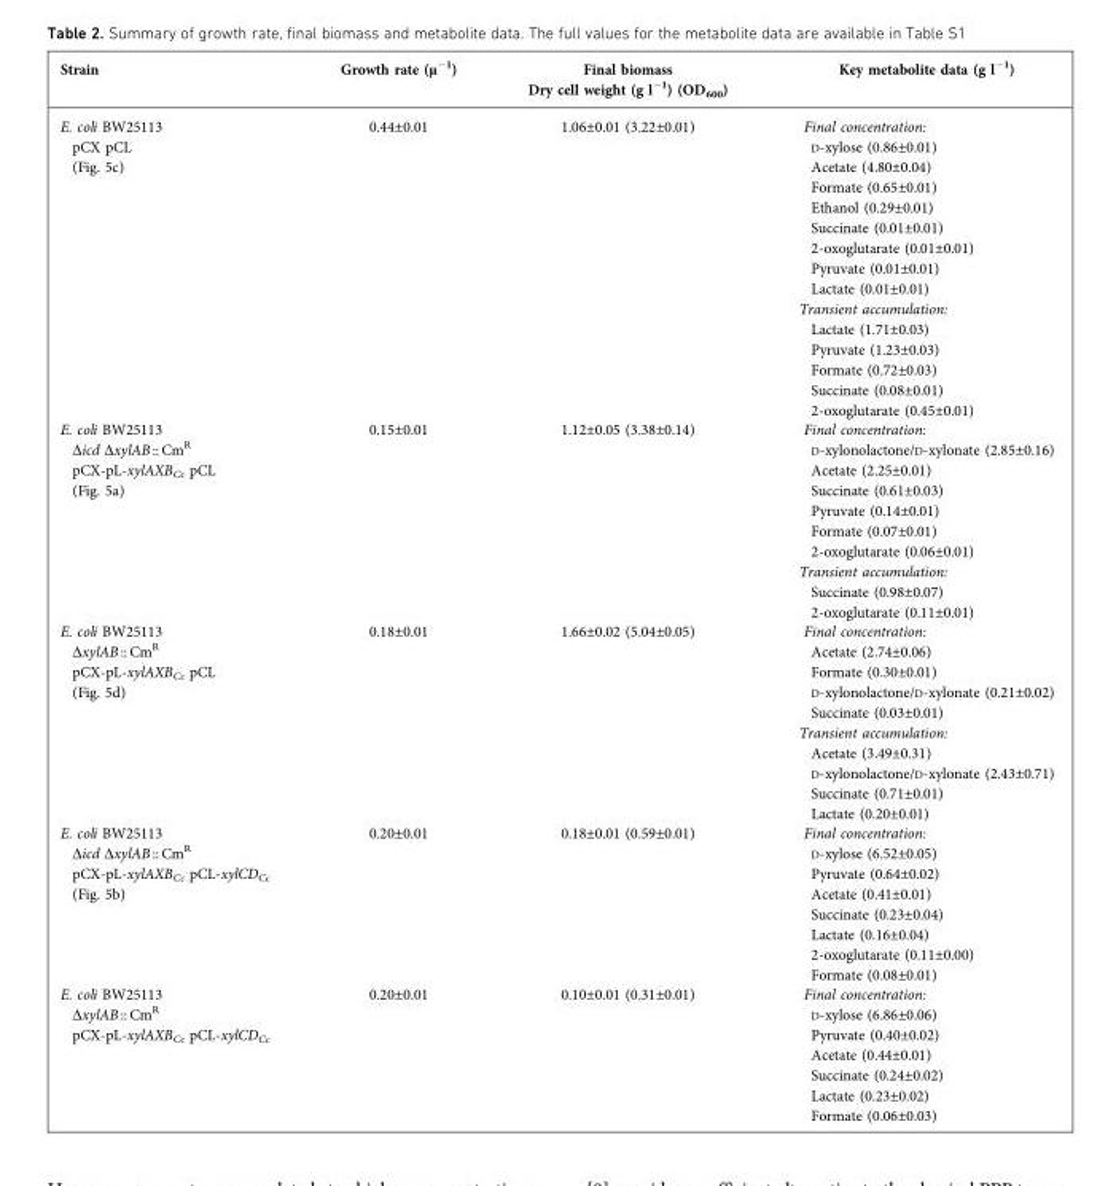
<table><thead><tr><td>Strain</td><td>Growth rate (µ<sup>−1</sup>)</td><td>Final biomass Dry cell weight (g l<sup>−1</sup>) (OD<sub>600</sub>)</td><td>Key metabolite data (g l<sup>−1</sup>)</td></tr></thead><tbody><tr><td>E. coli BW25113 pCX pCL (Fig. 5c)</td><td>0.44±0.01</td><td>1.06±0.01 (3.22±0.01)</td><td>Final concentration: D-xylose (0.86±0.01) Acetate (4.80±0.04) Formate (0.65±0.01) Ethanol (0.29±0.01) Succinate (0.01±0.01) 2-oxoglutarate (0.01±0.01) Pyruvate (0.01±0.01) Lactate (0.01±0.01) Transient accumulation: Lactate (1.71±0.03) Pyruvate (1.23±0.03) Formate (0.72±0.03) Succinate (0.08±0.01) 2-oxoglutarate (0.45±0.01)</td></tr><tr><td>E. coli BW25113 Δicd ΔxylAB :: Cm<sup>R</sup> pCX-pL-xylAXB<sub>Cc</sub> pCL (Fig. 5a)</td><td>0.15±0.01</td><td>1.12±0.05 (3.38±0.14)</td><td>Final concentration: D-xylonolactone/D-xylonate (2.85±0.16) Acetate (2.25±0.01) Succinate (0.61±0.03) Pyruvate (0.14±0.01) Formate (0.07±0.01) 2-oxoglutarate (0.06±0.01) Transient accumulation: Succinate (0.98±0.07) 2-oxoglutarate (0.11±0.01)</td></tr><tr><td>E. coli BW25113 ΔxylAB :: Cm<sup>R</sup> pCX-pL-xylAXB<sub>Cc</sub> pCL (Fig. 5d)</td><td>0.18±0.01</td><td>1.66±0.02 (5.04±0.05)</td><td>Final concentration: Acetate (2.74±0.06) Formate (0.30±0.01) D-xylonolactone/D-xylonate (0.21±0.02) Succinate (0.03±0.01) Transient accumulation: Acetate (3.49±0.31) D-xylonolactone/D-xylonate (2.43±0.71) Succinate (0.71±0.01) Lactate (0.20±0.01)</td></tr><tr><td>E. coli BW25113 Δicd ΔxylAB :: Cm<sup>R</sup> pCX-pL-xylAXB<sub>Cc</sub> pCL-xylCD<sub>Cc</sub> (Fig. 5b)</td><td>0.20±0.01</td><td>0.18±0.01 (0.59±0.01)</td><td>Final concentration: D-xylose (6.52±0.05) Pyruvate (0.64±0.02) Acetate (0.41±0.01) Succinate (0.23±0.04) Lactate (0.16±0.04) 2-oxoglutarate (0.11±0.00) Formate (0.08±0.01)</td></tr><tr><td>E. coli BW25113 ΔxylAB :: Cm<sup>R</sup> pCX-pL-xylAXB<sub>Cc</sub> pCL-xylCD<sub>Cc</sub></td><td>0.20±0.01</td><td>0.10±0.01 (0.31±0.01)</td><td>Final concentration: D-xylose (6.86±0.06) Pyruvate (0.40±0.02) Acetate (0.44±0.01) Succinate (0.24±0.02) Lactate (0.23±0.02) Formate (0.06±0.03)</td></tr></tbody></table>